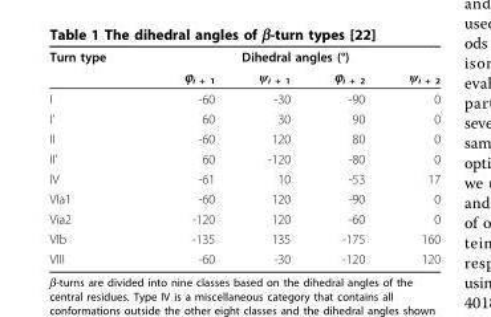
<table><thead><tr><td rowspan="2">Turn type</td><td colspan="4">Dihedral angles (°)</td></tr><tr><td>ϕ<sub>i + 1</sub></td><td>ψ<sub>i + 1</sub></td><td>ϕ<sub>i + 2</sub></td><td>ψ<sub>i + 2</sub></td></tr></thead><tbody><tr><td>I</td><td>-60</td><td>-30</td><td>-90</td><td>0</td></tr><tr><td>I’</td><td>60</td><td>30</td><td>90</td><td>0</td></tr><tr><td>II</td><td>-60</td><td>120</td><td>80</td><td>0</td></tr><tr><td>II’</td><td>60</td><td>-120</td><td>-80</td><td>0</td></tr><tr><td>IV</td><td>-61</td><td>10</td><td>-53</td><td>17</td></tr><tr><td>VIa1</td><td>-60</td><td>120</td><td>-90</td><td>0</td></tr><tr><td>Via2</td><td>-120</td><td>120</td><td>-60</td><td>0</td></tr><tr><td>VIb</td><td>-135</td><td>135</td><td>-175</td><td>160</td></tr><tr><td>VIII</td><td>-60</td><td>-30</td><td>-120</td><td>120</td></tr></tbody></table>